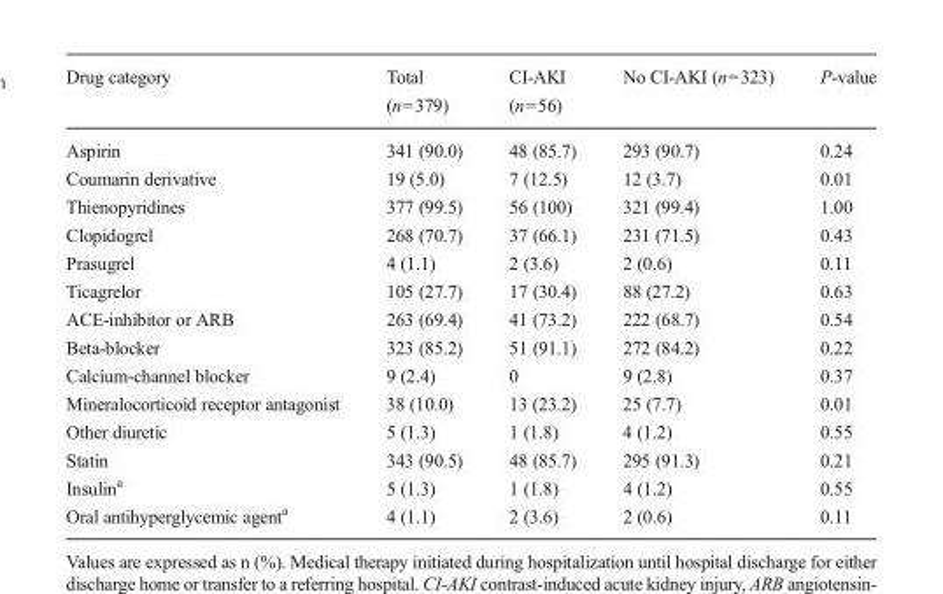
<table><thead><tr><td>Drug category</td><td>Total (n=379)</td><td>CI-AKI (n=56)</td><td>No CI-AKI (n=323)</td><td>P-value</td></tr></thead><tbody><tr><td>Aspirin</td><td>341 (90.0)</td><td>48 (85.7)</td><td>293 (90.7)</td><td>0.24</td></tr><tr><td>Coumarin derivative</td><td>19 (5.0)</td><td>7 (12.5)</td><td>12 (3.7)</td><td>0.01</td></tr><tr><td>Thienopyridines</td><td>377 (99.5)</td><td>56 (100)</td><td>321 (99.4)</td><td>1.00</td></tr><tr><td>Clopidogrel</td><td>268 (70.7)</td><td>37 (66.1)</td><td>231 (71.5)</td><td>0.43</td></tr><tr><td>Prasugrel</td><td>4 (1.1)</td><td>2 (3.6)</td><td>2 (0.6)</td><td>0.11</td></tr><tr><td>Ticagrelor</td><td>105 (27.7)</td><td>17 (30.4)</td><td>88 (27.2)</td><td>0.63</td></tr><tr><td>ACE-inhibitor or ARB</td><td>263 (69.4)</td><td>41 (73.2)</td><td>222 (68.7)</td><td>0.54</td></tr><tr><td>Beta-blocker</td><td>323 (85.2)</td><td>51 (91.1)</td><td>272 (84.2)</td><td>0.22</td></tr><tr><td>Calcium-channel blocker</td><td>9 (2.4)</td><td>0</td><td>9 (2.8)</td><td>0.37</td></tr><tr><td>Mineralocorticoid receptor antagonist</td><td>38 (10.0)</td><td>13 (23.2)</td><td>25 (7.7)</td><td>0.01</td></tr><tr><td>Other diuretic</td><td>5 (1.3)</td><td>1 (1.8)</td><td>4 (1.2)</td><td>0.55</td></tr><tr><td>Statin</td><td>343 (90.5)</td><td>48 (85.7)</td><td>295 (91.3)</td><td>0.21</td></tr><tr><td>Insulin<sup>a</sup></td><td>5 (1.3)</td><td>1 (1.8)</td><td>4 (1.2)</td><td>0.55</td></tr><tr><td>Oral antihyperglycemic agent<sup>a</sup></td><td>4 (1.1)</td><td>2 (3.6)</td><td>2 (0.6)</td><td>0.11</td></tr></tbody></table>